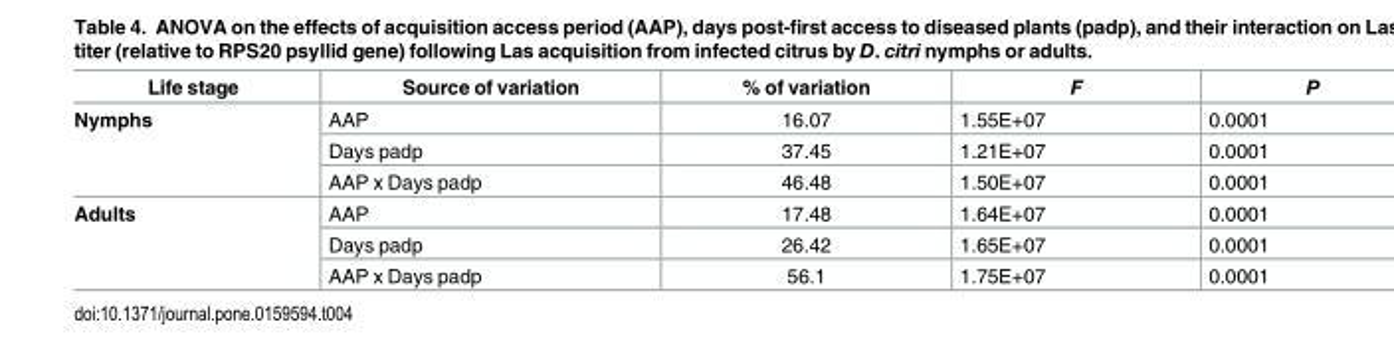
<table><thead><tr><td>Life stage</td><td>Source of variation</td><td>% of variation</td><td>F</td><td>P</td></tr></thead><tbody><tr><td rowspan="3">Nymphs</td><td>AAP</td><td>16.07</td><td>1.55E+07</td><td>0.0001</td></tr><tr><td>Days padp</td><td>37.45</td><td>1.21E+07</td><td>0.0001</td></tr><tr><td>AAP x Days padp</td><td>46.48</td><td>1.50E+07</td><td>0.0001</td></tr><tr><td rowspan="3">Adults</td><td>AAP</td><td>17.48</td><td>1.64E+07</td><td>0.0001</td></tr><tr><td>Days padp</td><td>26.42</td><td>1.65E+07</td><td>0.0001</td></tr><tr><td>AAP x Days padp</td><td>56.1</td><td>1.75E+07</td><td>0.0001</td></tr></tbody></table>